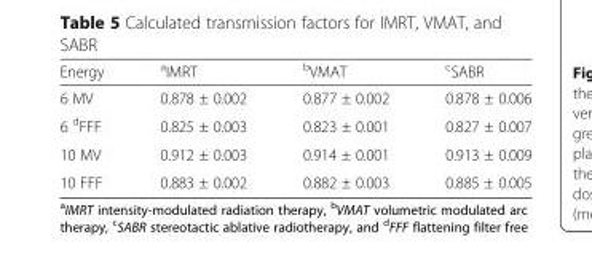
<table><thead><tr><td>Energy</td><td><sup>a</sup>IMRT</td><td><sup>b</sup>VMAT</td><td><sup>c</sup>SABR</td></tr></thead><tbody><tr><td>6 MV</td><td>0.878 ± 0.002</td><td>0.877 ± 0.002</td><td>0.878 ± 0.006</td></tr><tr><td>6 <sup>d</sup>FFF</td><td>0.825 ± 0.003</td><td>0.823 ± 0.001</td><td>0.827 ± 0.007</td></tr><tr><td>10 MV</td><td>0.912 ± 0.003</td><td>0.914 ± 0.001</td><td>0.913 ± 0.009</td></tr><tr><td>10 FFF</td><td>0.883 ± 0.002</td><td>0.882 ± 0.003</td><td>0.885 ± 0.005</td></tr></tbody></table>